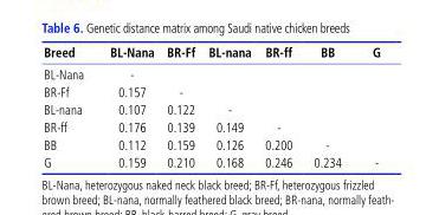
<table><thead><tr><td>Breed</td><td>BL-Nana</td><td>BR-Ff</td><td>BL-nana</td><td>BR-ff</td><td>BB</td><td>G</td></tr></thead><tbody><tr><td>BL-Nana</td><td>-</td><td></td><td></td><td></td><td></td><td></td></tr><tr><td>BR-Ff</td><td>0.157</td><td>-</td><td></td><td></td><td></td><td></td></tr><tr><td>BL-nana</td><td>0.107</td><td>0.122</td><td>-</td><td></td><td></td><td></td></tr><tr><td>BR-ff</td><td>0.176</td><td>0.139</td><td>0.149</td><td>-</td><td></td><td></td></tr><tr><td>BB</td><td>0.112</td><td>0.159</td><td>0.126</td><td>0.200</td><td>-</td><td></td></tr><tr><td>G</td><td>0.159</td><td>0.210</td><td>0.168</td><td>0.246</td><td>0.234</td><td>-</td></tr></tbody></table>